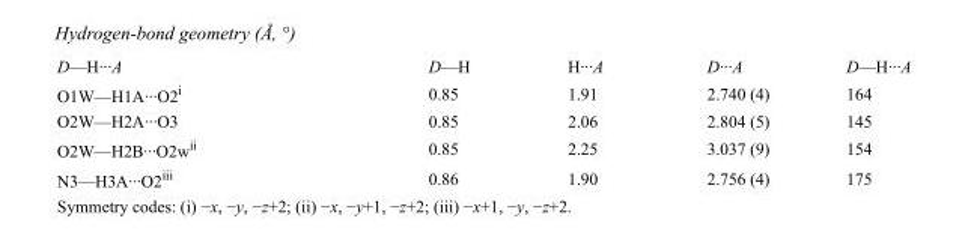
<table><tbody><tr><td>D—H···A</td><td>D—H</td><td>H···A</td><td>D···A</td><td>D—H···A</td></tr><tr><td>O1W—H1A···O2<sup>i</sup></td><td>0.85</td><td>1.91</td><td>2.740 (4)</td><td>164</td></tr><tr><td>O2W—H2A···O3</td><td>0.85</td><td>2.06</td><td>2.804 (5)</td><td>145</td></tr><tr><td>O2W—H2B···O2w<sup>ii</sup></td><td>0.85</td><td>2.25</td><td>3.037 (9)</td><td>154</td></tr><tr><td>N3—H3A···O2<sup>iii</sup></td><td>0.86</td><td>1.90</td><td>2.756 (4)</td><td>175</td></tr></tbody></table>